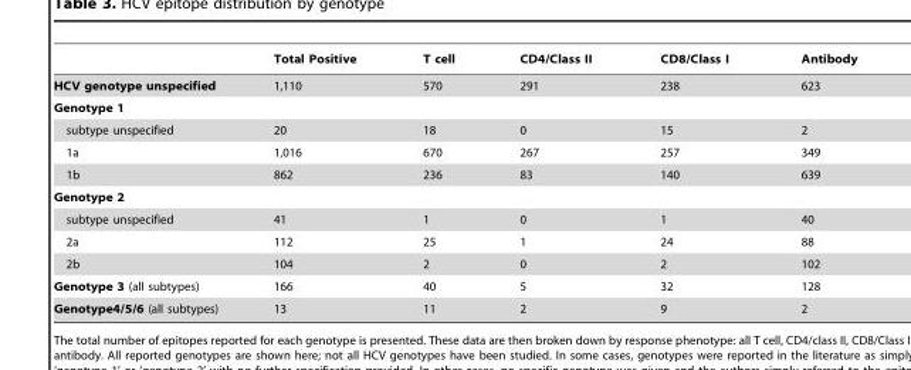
<table><thead><tr><td></td><td>Total Positive</td><td>T cell</td><td>CD4/Class II</td><td>CD8/Class I</td><td>Antibody</td></tr></thead><tbody><tr><td>HCV genotype unspecified</td><td>1,110</td><td>570</td><td>291</td><td>238</td><td>623</td></tr><tr><td colspan="6">Genotype 1</td></tr><tr><td>subtype unspecified</td><td>20</td><td>18</td><td>0</td><td>15</td><td>2</td></tr><tr><td>1a</td><td>1,016</td><td>670</td><td>267</td><td>257</td><td>349</td></tr><tr><td>1b</td><td>862</td><td>236</td><td>83</td><td>140</td><td>639</td></tr><tr><td colspan="6">Genotype 2</td></tr><tr><td>subtype unspecified</td><td>41</td><td>1</td><td>0</td><td>1</td><td>40</td></tr><tr><td>2a</td><td>112</td><td>25</td><td>1</td><td>24</td><td>88</td></tr><tr><td>2b</td><td>104</td><td>2</td><td>0</td><td>2</td><td>102</td></tr><tr><td>Genotype 3 (all subtypes)</td><td>166</td><td>40</td><td>5</td><td>32</td><td>128</td></tr><tr><td>Genotype4/5/6 (all subtypes)</td><td>13</td><td>11</td><td>2</td><td>9</td><td>2</td></tr></tbody></table>